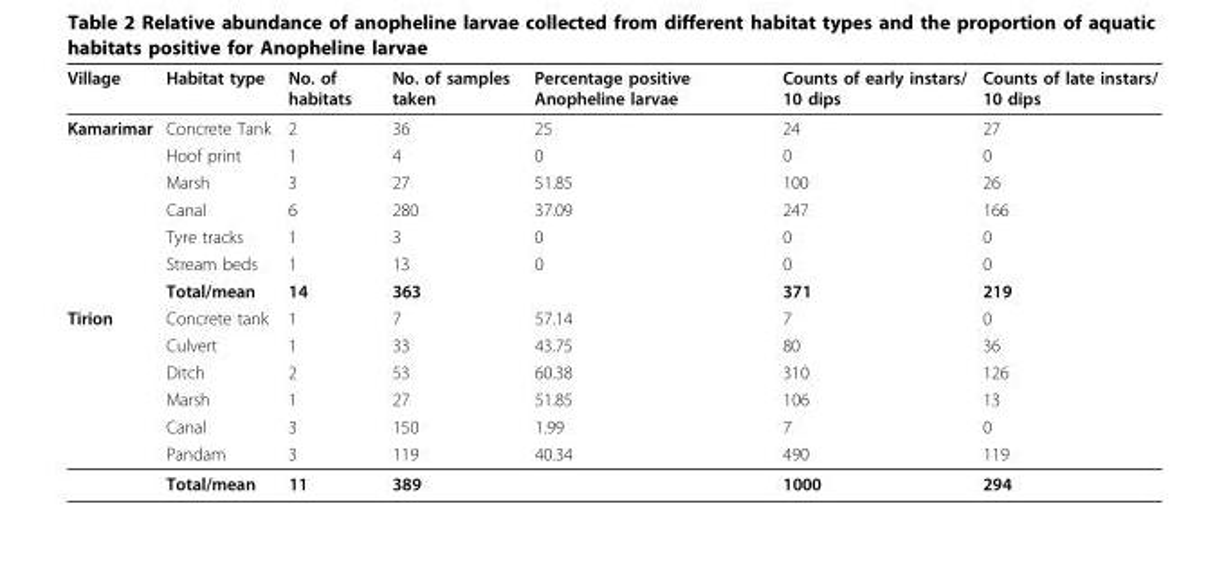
<table><thead><tr><td>Village</td><td>Habitat type</td><td>No. of habitats</td><td>No. of samples taken</td><td>Percentage positive Anopheline larvae</td><td>Counts of early instars/ 10 dips</td><td>Counts of late instars/ 10 dips</td></tr></thead><tbody><tr><td rowspan="7">Kamarimar</td><td>Concrete Tank</td><td>2</td><td>36</td><td>25</td><td>24</td><td>27</td></tr><tr><td>Hoof print</td><td>1</td><td>4</td><td>0</td><td>0</td><td>0</td></tr><tr><td>Marsh</td><td>3</td><td>27</td><td>51.85</td><td>100</td><td>26</td></tr><tr><td>Canal</td><td>6</td><td>280</td><td>37.09</td><td>247</td><td>166</td></tr><tr><td>Tyre tracks</td><td>1</td><td>3</td><td>0</td><td>0</td><td>0</td></tr><tr><td>Stream beds</td><td>1</td><td>13</td><td>0</td><td>0</td><td>0</td></tr><tr><td>Total/mean</td><td>14</td><td>363</td><td></td><td>371</td><td>219</td></tr><tr><td rowspan="7">Tirion</td><td>Concrete tank</td><td>1</td><td>7</td><td>57.14</td><td>7</td><td>0</td></tr><tr><td>Culvert</td><td>1</td><td>33</td><td>43.75</td><td>80</td><td>36</td></tr><tr><td>Ditch</td><td>2</td><td>53</td><td>60.38</td><td>310</td><td>126</td></tr><tr><td>Marsh</td><td>1</td><td>27</td><td>51.85</td><td>106</td><td>13</td></tr><tr><td>Canal</td><td>3</td><td>150</td><td>1.99</td><td>7</td><td>0</td></tr><tr><td>Pandam</td><td>3</td><td>119</td><td>40.34</td><td>490</td><td>119</td></tr><tr><td>Total/mean</td><td>11</td><td>389</td><td></td><td>1000</td><td>294</td></tr></tbody></table>